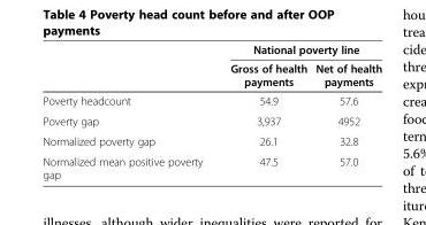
<table><thead><tr><td rowspan="2"></td><td colspan="2">National poverty line</td></tr><tr><td>Gross of health payments</td><td>Net of health payments</td></tr></thead><tbody><tr><td>Poverty headcount</td><td>54.9</td><td>57.6</td></tr><tr><td>Poverty gap</td><td>3,937</td><td>4952</td></tr><tr><td>Normalized poverty gap</td><td>26.1</td><td>32.8</td></tr><tr><td>Normalized mean positive poverty gap</td><td>47.5</td><td>57.0</td></tr></tbody></table>